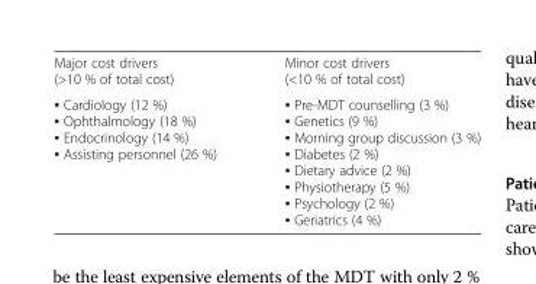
<table><tbody><tr><td>Major cost drivers (&gt;10 % of total cost)</td><td>Minor cost drivers (&lt;10 % of total cost)</td></tr><tr><td>▪ Cardiology (12 %) ▪ Ophthalmology (18 %) ▪ Endocrinology (14 %) ▪ Assisting personnel (26 %)</td><td>▪ Pre-MDT counselling (3 %) ▪ Genetics (9 %) ▪ Morning group discussion (3 %) ▪ Diabetes (2 %) ▪ Dietary advice (2 %) ▪ Physiotherapy (5 %) ▪ Psychology (2 %) ▪ Geriatrics (4 %)</td></tr></tbody></table>